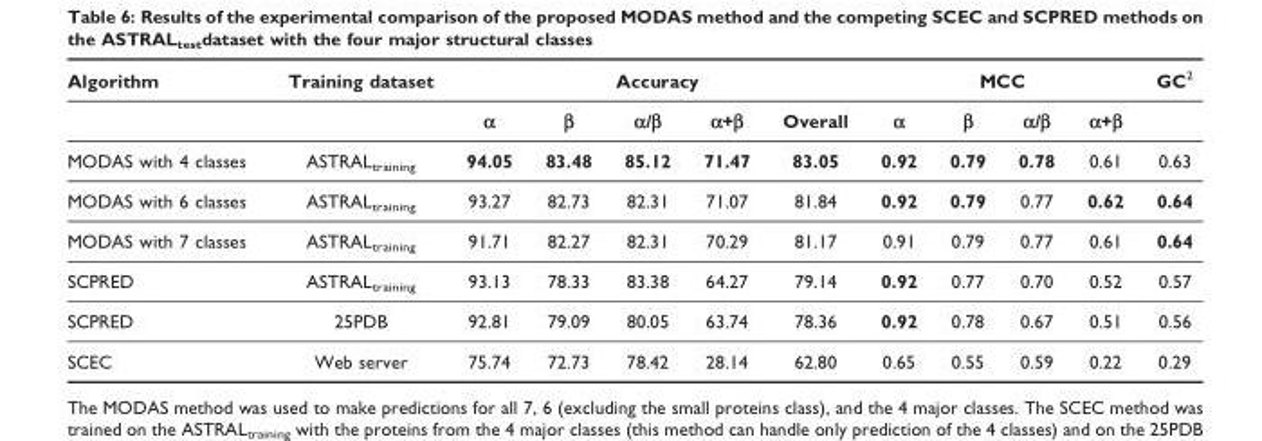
<table><thead><tr><td rowspan="2">Algorithm</td><td rowspan="2">Training dataset</td><td colspan="5">Accuracy</td><td colspan="4">MCC</td><td rowspan="2">GC2</td></tr><tr><td>α</td><td>β</td><td>α/β</td><td>α+β</td><td>Overall</td><td>α</td><td>β</td><td>α/β</td><td>α+β</td></tr></thead><tbody><tr><td>MODAS with 4 classes</td><td>ASTRALtraining</td><td>94.05</td><td>83.48</td><td>85.12</td><td>71.47</td><td>83.05</td><td>0.92</td><td>0.79</td><td>0.78</td><td>0.61</td><td>0.63</td></tr><tr><td>MODAS with 6 classes</td><td>ASTRALtraining</td><td>93.27</td><td>82.73</td><td>82.31</td><td>71.07</td><td>81.84</td><td>0.92</td><td>0.79</td><td>0.77</td><td>0.62</td><td>0.64</td></tr><tr><td>MODAS with 7 classes</td><td>ASTRALtraining</td><td>91.71</td><td>82.27</td><td>82.31</td><td>70.29</td><td>81.17</td><td>0.91</td><td>0.79</td><td>0.77</td><td>0.61</td><td>0.64</td></tr><tr><td>SCPRED</td><td>ASTRALtraining</td><td>93.13</td><td>78.33</td><td>83.38</td><td>64.27</td><td>79.14</td><td>0.92</td><td>0.77</td><td>0.70</td><td>0.52</td><td>0.57</td></tr><tr><td>SCPRED</td><td>25PDB</td><td>92.81</td><td>79.09</td><td>80.05</td><td>63.74</td><td>78.36</td><td>0.92</td><td>0.78</td><td>0.67</td><td>0.51</td><td>0.56</td></tr><tr><td>SCEC</td><td>Web server</td><td>75.74</td><td>72.73</td><td>78.42</td><td>28.14</td><td>62.80</td><td>0.65</td><td>0.55</td><td>0.59</td><td>0.22</td><td>0.29</td></tr></tbody></table>